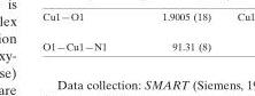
<table><tbody><tr><td>O1—Cu1—N1</td><td>91.31 (8)</td></tr></tbody></table>